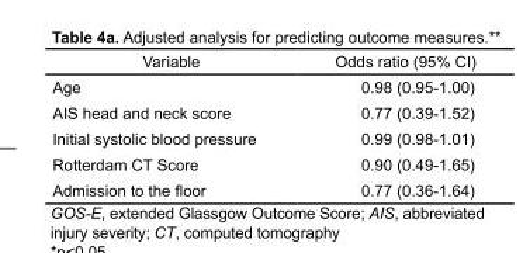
<table><thead><tr><td>Variable</td><td>Odds ratio (95% CI)</td></tr></thead><tbody><tr><td>Age</td><td>0.98 (0.95-1.00)</td></tr><tr><td>AIS head and neck score</td><td>0.77 (0.39-1.52)</td></tr><tr><td>Initial systolic blood pressure</td><td>0.99 (0.98-1.01)</td></tr><tr><td>Rotterdam CT Score</td><td>0.90 (0.49-1.65)</td></tr><tr><td>Admission to the floor</td><td>0.77 (0.36-1.64)</td></tr></tbody></table>